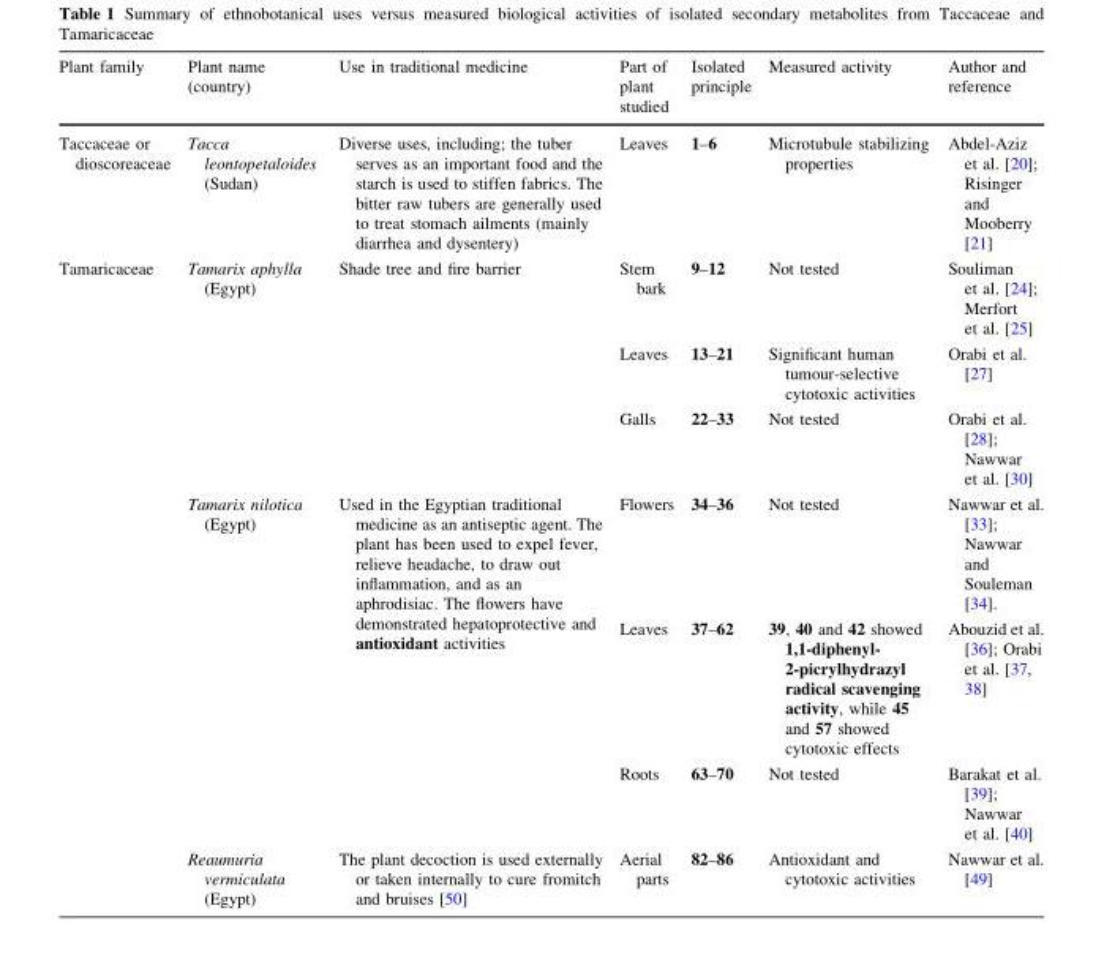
<table><thead><tr><td>Plant family</td><td>Plant name (country)</td><td>Use in traditional medicine</td><td>Part of plant studied</td><td>Isolated principle</td><td>Measured activity</td><td>Author and reference</td></tr></thead><tbody><tr><td>Taccaceae or dioscoreaceae</td><td>Tacca leontopetaloides (Sudan)</td><td>Diverse uses, including; the tuber serves as an important food and the starch is used to stiffen fabrics. The bitter raw tubers are generally used to treat stomach ailments (mainly diarrhea and dysentery)</td><td>Leaves</td><td>1–6</td><td>Microtubule stabilizing properties</td><td>Abdel-Aziz et al. [20]; Risinger and Mooberry [21]</td></tr><tr><td rowspan="7">Tamaricaceae</td><td rowspan="3">Tamarix aphylla (Egypt)</td><td rowspan="3">Shade tree and fire barrier</td><td>Stem bark</td><td>9–12</td><td>Not tested</td><td>Souliman et al. [24]; Merfort et al. [25]</td></tr><tr><td>Leaves</td><td>13–21</td><td>Significant human tumour-selective cytotoxic activities</td><td>Orabi et al. [27]</td></tr><tr><td>Galls</td><td>22–33</td><td>Not tested</td><td>Orabi et al. [28]; Nawwar et al. [30]</td></tr><tr><td rowspan="3">Tamarix nilotica (Egypt)</td><td rowspan="3">Used in the Egyptian traditional medicine as an antiseptic agent. The plant has been used to expel fever, relieve headache, to draw out inflammation, and as an aphrodisiac. The flowers have demonstrated hepatoprotective and antioxidant activities</td><td>Flowers</td><td>34–36</td><td>Not tested</td><td>Nawwar et al. [33]; Nawwar and Souleman [34].</td></tr><tr><td>Leaves</td><td>37–62</td><td>39, 40 and 42 showed 1,1-diphenyl- 2-picrylhydrazyl radical scavenging activity, while 45 and 57 showed cytotoxic effects</td><td>Abouzid et al. [36]; Orabi et al. [37, 38]</td></tr><tr><td>Roots</td><td>63–70</td><td>Not tested</td><td>Barakat et al. [39]; Nawwar et al. [40]</td></tr><tr><td>Reaumuria vermiculata (Egypt)</td><td>The plant decoction is used externally or taken internally to cure fromitch and bruises [50]</td><td>Aerial parts</td><td>82–86</td><td>Antioxidant and cytotoxic activities</td><td>Nawwar et al. [49]</td></tr></tbody></table>